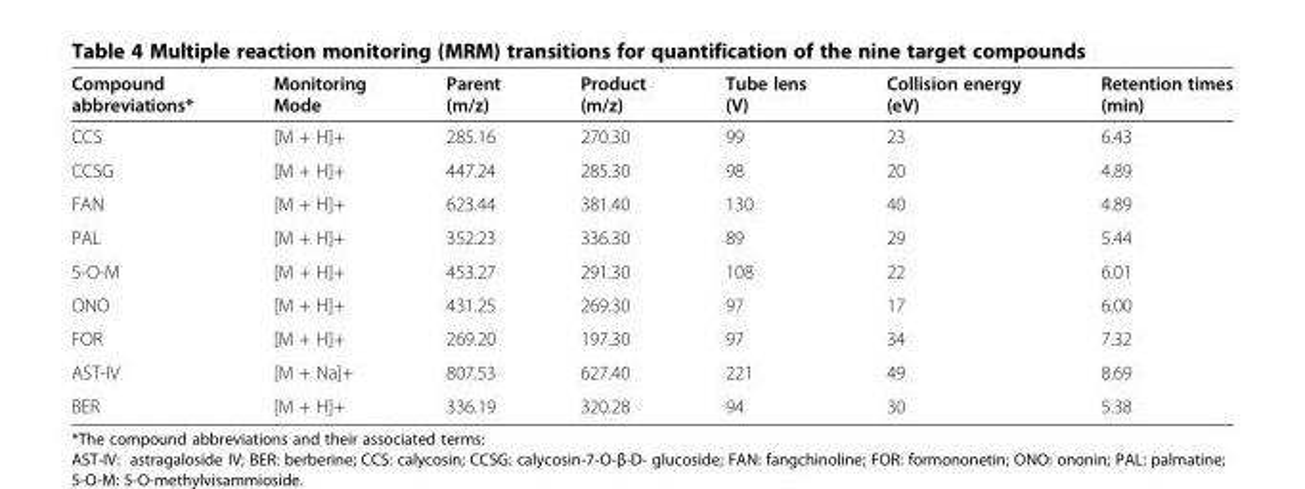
<table><thead><tr><td>Compound abbreviations*</td><td>Monitoring Mode</td><td>Parent (m/z)</td><td>Product (m/z)</td><td>Tube lens (V)</td><td>Collision energy (eV)</td><td>Retention times (min)</td></tr></thead><tbody><tr><td>CCS</td><td>[M + H]+</td><td>285.16</td><td>270.30</td><td>99</td><td>23</td><td>6.43</td></tr><tr><td>CCSG</td><td>[M + H]+</td><td>447.24</td><td>285.30</td><td>98</td><td>20</td><td>4.89</td></tr><tr><td>FAN</td><td>[M + H]+</td><td>623.44</td><td>381.40</td><td>130</td><td>40</td><td>4.89</td></tr><tr><td>PAL</td><td>[M + H]+</td><td>352.23</td><td>336.30</td><td>89</td><td>29</td><td>5.44</td></tr><tr><td>5-O-M</td><td>[M + H]+</td><td>453.27</td><td>291.30</td><td>108</td><td>22</td><td>6.01</td></tr><tr><td>ONO</td><td>[M + H]+</td><td>431.25</td><td>269.30</td><td>97</td><td>17</td><td>6.00</td></tr><tr><td>FOR</td><td>[M + H]+</td><td>269.20</td><td>197.30</td><td>97</td><td>34</td><td>7.32</td></tr><tr><td>AST-IV</td><td>[M + Na]+</td><td>807.53</td><td>627.40</td><td>221</td><td>49</td><td>8.69</td></tr><tr><td>BER</td><td>[M + H]+</td><td>336.19</td><td>320.28</td><td>94</td><td>30</td><td>5.38</td></tr></tbody></table>